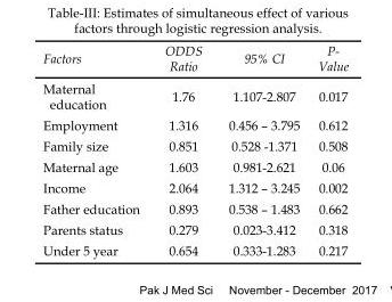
<table><thead><tr><td>Factors</td><td>ODDS Ratio</td><td>95% CI</td><td>P- Value</td></tr></thead><tbody><tr><td>Maternal education</td><td>1.76</td><td>1.107-2.807</td><td>0.017</td></tr><tr><td>Employment</td><td>1.316</td><td>0.456 – 3.795</td><td>0.612</td></tr><tr><td>Family size</td><td>0.851</td><td>0.528 -1.371</td><td>0.508</td></tr><tr><td>Maternal age</td><td>1.603</td><td>0.981-2.621</td><td>0.06</td></tr><tr><td>Income</td><td>2.064</td><td>1.312 – 3.245</td><td>0.002</td></tr><tr><td>Father education</td><td>0.893</td><td>0.538 – 1.483</td><td>0.662</td></tr><tr><td>Parents status</td><td>0.279</td><td>0.023-3.412</td><td>0.318</td></tr><tr><td>Under 5 year</td><td>0.654</td><td>0.333-1.283</td><td>0.217</td></tr></tbody></table>